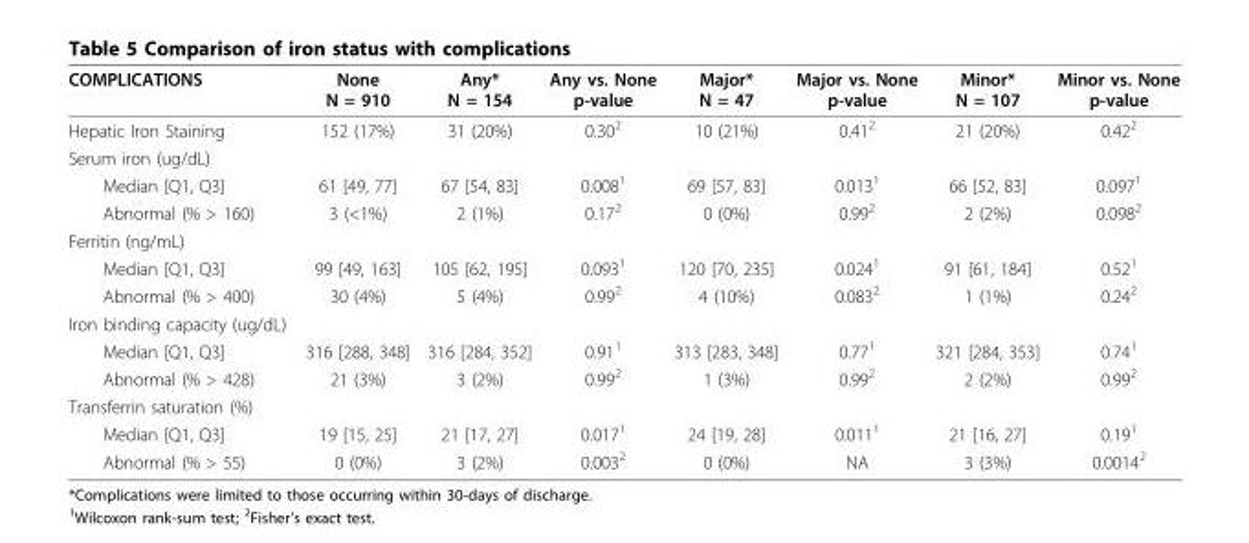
<table><thead><tr><td>COMPLICATIONS</td><td>None N = 910</td><td>Any* N = 154</td><td>Any vs. None p-value</td><td>Major* N = 47</td><td>Major vs. None p-value</td><td>Minor* N = 107</td><td>Minor vs. None p-value</td></tr></thead><tbody><tr><td>Hepatic Iron Staining</td><td>152 (17%)</td><td>31 (20%)</td><td>0.30<sup>2</sup></td><td>10 (21%)</td><td>0.41<sup>2</sup></td><td>21 (20%)</td><td>0.42<sup>2</sup></td></tr><tr><td colspan="8">Serum iron (ug/dL)</td></tr><tr><td>Median [Q1, Q3]</td><td>61 [49, 77]</td><td>67 [54, 83]</td><td>0.008<sup>1</sup></td><td>69 [57, 83]</td><td>0.013<sup>1</sup></td><td>66 [52, 83]</td><td>0.097<sup>1</sup></td></tr><tr><td>Abnormal (% &gt; 160)</td><td>3 (&lt;1%)</td><td>2 (1%)</td><td>0.17<sup>2</sup></td><td>0 (0%)</td><td>0.99<sup>2</sup></td><td>2 (2%)</td><td>0.098<sup>2</sup></td></tr><tr><td colspan="8">Ferritin (ng/mL)</td></tr><tr><td>Median [Q1, Q3]</td><td>99 [49, 163]</td><td>105 [62, 195]</td><td>0.093<sup>1</sup></td><td>120 [70, 235]</td><td>0.024<sup>1</sup></td><td>91 [61, 184]</td><td>0.52<sup>1</sup></td></tr><tr><td>Abnormal (% &gt; 400)</td><td>30 (4%)</td><td>5 (4%)</td><td>0.99<sup>2</sup></td><td>4 (10%)</td><td>0.083<sup>2</sup></td><td>1 (1%)</td><td>0.24<sup>2</sup></td></tr><tr><td colspan="8">Iron binding capacity (ug/dL)</td></tr><tr><td>Median [Q1, Q3]</td><td>316 [288, 348]</td><td>316 [284, 352]</td><td>0.91<sup>1</sup></td><td>313 [283, 348]</td><td>0.77<sup>1</sup></td><td>321 [284, 353]</td><td>0.74<sup>1</sup></td></tr><tr><td>Abnormal (% &gt; 428)</td><td>21 (3%)</td><td>3 (2%)</td><td>0.99<sup>2</sup></td><td>1 (3%)</td><td>0.99<sup>2</sup></td><td>2 (2%)</td><td>0.99<sup>2</sup></td></tr><tr><td colspan="8">Transferrin saturation (%)</td></tr><tr><td>Median [Q1, Q3]</td><td>19 [15, 25]</td><td>21 [17, 27]</td><td>0.017<sup>1</sup></td><td>24 [19, 28]</td><td>0.011<sup>1</sup></td><td>21 [16, 27]</td><td>0.19<sup>1</sup></td></tr><tr><td>Abnormal (% &gt; 55)</td><td>0 (0%)</td><td>3 (2%)</td><td>0.003<sup>2</sup></td><td>0 (0%)</td><td>NA</td><td>3 (3%)</td><td>0.0014<sup>2</sup></td></tr></tbody></table>